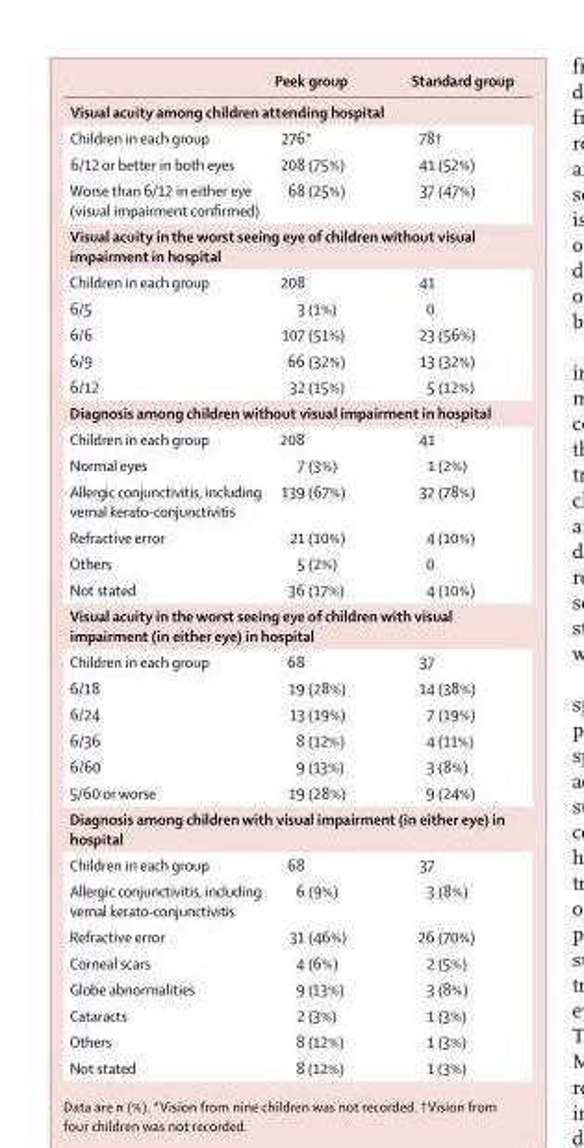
<table><thead><tr><td></td><td>Peek group</td><td>Standard group</td></tr></thead><tbody><tr><td colspan="3">Visual acuity among children attending hospital</td></tr><tr><td>Children in each group</td><td>276*</td><td>78†</td></tr><tr><td>6/12 or better in both eyes</td><td>208 (75%)</td><td>41 (52%)</td></tr><tr><td>Worse than 6/12 in either eye (visual impairment confirmed)</td><td>68 (25%)</td><td>37 (47%)</td></tr><tr><td colspan="3">Visual acuity in the worst seeing eye of children without visual impairment in hospital</td></tr><tr><td>Children in each group</td><td>208</td><td>41</td></tr><tr><td>6/5</td><td>3 (1%)</td><td>0</td></tr><tr><td>6/6</td><td>107 (51%)</td><td>23 (56%)</td></tr><tr><td>6/9</td><td>66 (32%)</td><td>13 (32%)</td></tr><tr><td>6/12</td><td>32 (15%)</td><td>5 (12%)</td></tr><tr><td colspan="3">Diagnosis among children without visual impairment in hospital</td></tr><tr><td>Children in each group</td><td>208</td><td>41</td></tr><tr><td>Normal eyes</td><td>7 (3%)</td><td>1 (2%)</td></tr><tr><td>Allergic conjunctivitis, including vernal kerato-conjunctivitis</td><td>139 (67%)</td><td>32 (78%)</td></tr><tr><td>Refractive error</td><td>21 (10%)</td><td>4 (10%)</td></tr><tr><td>Others</td><td>5 (2%)</td><td>0</td></tr><tr><td>Not stated</td><td>36 (17%)</td><td>4 (10%)</td></tr><tr><td colspan="3">Visual acuity in the worst seeing eye of children with visual impairment (in either eye) in hospital</td></tr><tr><td>Children in each group</td><td>68</td><td>37</td></tr><tr><td>6/18</td><td>19 (28%)</td><td>14 (38%)</td></tr><tr><td>6/24</td><td>13 (19%)</td><td>7 (19%)</td></tr><tr><td>6/36</td><td>8 (12%)</td><td>4 (11%)</td></tr><tr><td>6/60</td><td>9 (13%)</td><td>3 (8%)</td></tr><tr><td>5/60 or worse</td><td>19 (28%)</td><td>9 (24%)</td></tr><tr><td colspan="3">Diagnosis among children with visual impairment (in either eye) in hospital</td></tr><tr><td>Children in each group</td><td>68</td><td>37</td></tr><tr><td>Allergic conjunctivitis, including vernal kerato-conjunctivitis</td><td>6 (9%)</td><td>3 (8%)</td></tr><tr><td>Refractive error</td><td>31 (46%)</td><td>26 (70%)</td></tr><tr><td>Corneal scars</td><td>4 (6%)</td><td>2 (5%)</td></tr><tr><td>Globe abnormalities</td><td>9 (13%)</td><td>3 (8%)</td></tr><tr><td>Cataracts</td><td>2 (3%)</td><td>1 (3%)</td></tr><tr><td>Others</td><td>8 (12%)</td><td>1 (3%)</td></tr><tr><td>Not stated</td><td>8 (12%)</td><td>1 (3%)</td></tr></tbody></table>